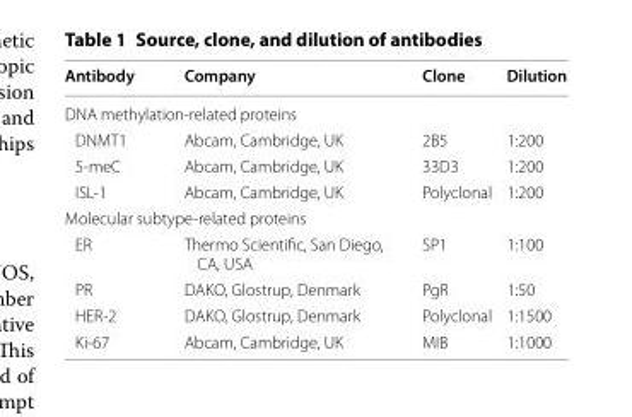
<table><thead><tr><td>Antibody</td><td>Company</td><td>Clone</td><td>Dilution</td></tr></thead><tbody><tr><td colspan="4">DNA methylation-related proteins</td></tr><tr><td>DNMT1</td><td>Abcam, Cambridge, UK</td><td>2B5</td><td>1:200</td></tr><tr><td>5-meC</td><td>Abcam, Cambridge, UK</td><td>33D3</td><td>1:200</td></tr><tr><td>ISL-1</td><td>Abcam, Cambridge, UK</td><td>Polyclonal</td><td>1:200</td></tr><tr><td colspan="4">Molecular subtype-related proteins</td></tr><tr><td>ER</td><td>Thermo Scientific, San Diego, CA, USA</td><td>SP1</td><td>1:100</td></tr><tr><td>PR</td><td>DAKO, Glostrup, Denmark</td><td>PgR</td><td>1:50</td></tr><tr><td>HER-2</td><td>DAKO, Glostrup, Denmark</td><td>Polyclonal</td><td>1:1500</td></tr><tr><td>Ki-67</td><td>Abcam, Cambridge, UK</td><td>MIB</td><td>1:1000</td></tr></tbody></table>